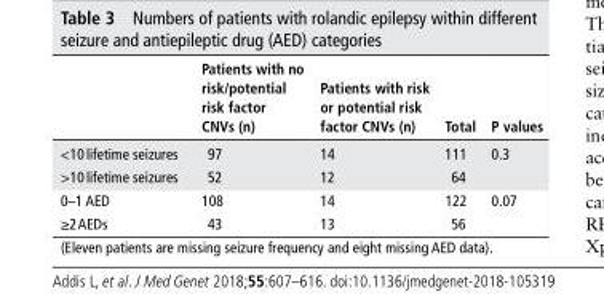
<table><thead><tr><td></td><td>Patients with no risk/potential risk factor CNVs (n)</td><td>Patients with risk or potential risk factor CNVs (n)</td><td>Total</td><td>P values</td></tr></thead><tbody><tr><td>&lt;10 lifetime seizures</td><td>97</td><td>14</td><td>111</td><td rowspan="2">0.3</td></tr><tr><td>&gt;10 lifetime seizures</td><td>52</td><td>12</td><td>64</td></tr><tr><td>0–1 AED</td><td>108</td><td>14</td><td>122</td><td rowspan="2">0.07</td></tr><tr><td>≥2 AEDs</td><td>43</td><td>13</td><td>56</td></tr></tbody></table>